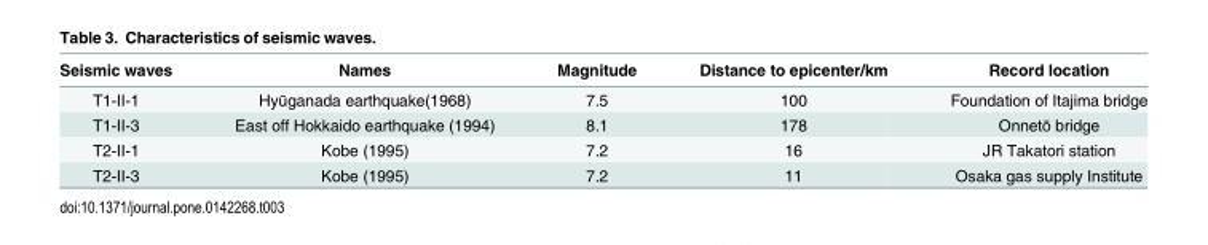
<table><thead><tr><td>Seismic waves</td><td>Names</td><td>Magnitude</td><td>Distance to epicenter/km</td><td>Record location</td></tr></thead><tbody><tr><td>T1-II-1</td><td>Hyūganada earthquake(1968)</td><td>7.5</td><td>100</td><td>Foundation of Itajima bridge</td></tr><tr><td>T1-II-3</td><td>East off Hokkaido earthquake (1994)</td><td>8.1</td><td>178</td><td>Onnetō bridge</td></tr><tr><td>T2-II-1</td><td>Kobe (1995)</td><td>7.2</td><td>16</td><td>JR Takatori station</td></tr><tr><td>T2-II-3</td><td>Kobe (1995)</td><td>7.2</td><td>11</td><td>Osaka gas supply Institute</td></tr></tbody></table>